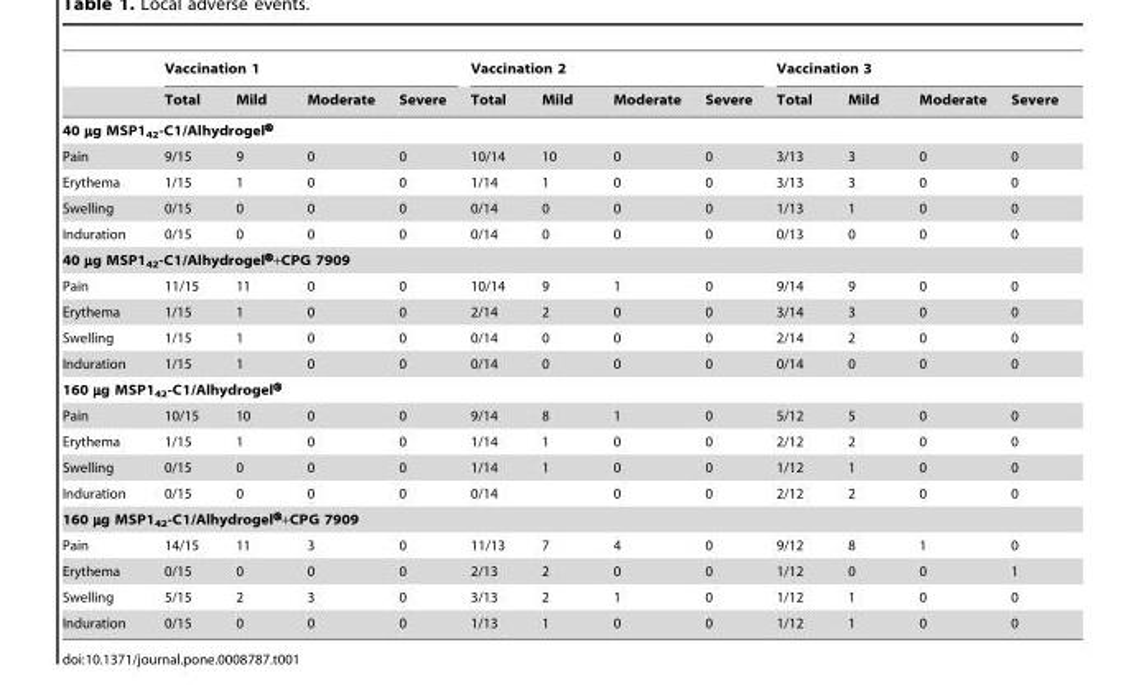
<table><thead><tr><td rowspan="2"></td><td colspan="4">Vaccination 1</td><td colspan="4">Vaccination 2</td><td colspan="4">Vaccination 3</td></tr><tr><td>Total</td><td>Mild</td><td>Moderate</td><td>Severe</td><td>Total</td><td>Mild</td><td>Moderate</td><td>Severe</td><td>Total</td><td>Mild</td><td>Moderate</td><td>Severe</td></tr></thead><tbody><tr><td colspan="13">40 µg MSP1<sub>42</sub>-C1/Alhydrogel®</td></tr><tr><td>Pain</td><td>9/15</td><td>9</td><td>0</td><td>0</td><td>10/14</td><td>10</td><td>0</td><td>0</td><td>3/13</td><td>3</td><td>0</td><td>0</td></tr><tr><td>Erythema</td><td>1/15</td><td>1</td><td>0</td><td>0</td><td>1/14</td><td>1</td><td>0</td><td>0</td><td>3/13</td><td>3</td><td>0</td><td>0</td></tr><tr><td>Swelling</td><td>0/15</td><td>0</td><td>0</td><td>0</td><td>0/14</td><td>0</td><td>0</td><td>0</td><td>1/13</td><td>1</td><td>0</td><td>0</td></tr><tr><td>Induration</td><td>0/15</td><td>0</td><td>0</td><td>0</td><td>0/14</td><td>0</td><td>0</td><td>0</td><td>0/13</td><td>0</td><td>0</td><td>0</td></tr><tr><td colspan="13">40 µg MSP1<sub>42</sub>-C1/Alhydrogel®+CPG 7909</td></tr><tr><td>Pain</td><td>11/15</td><td>11</td><td>0</td><td>0</td><td>10/14</td><td>9</td><td>1</td><td>0</td><td>9/14</td><td>9</td><td>0</td><td>0</td></tr><tr><td>Erythema</td><td>1/15</td><td>1</td><td>0</td><td>0</td><td>2/14</td><td>2</td><td>0</td><td>0</td><td>3/14</td><td>3</td><td>0</td><td>0</td></tr><tr><td>Swelling</td><td>1/15</td><td>1</td><td>0</td><td>0</td><td>0/14</td><td>0</td><td>0</td><td>0</td><td>2/14</td><td>2</td><td>0</td><td>0</td></tr><tr><td>Induration</td><td>1/15</td><td>1</td><td>0</td><td>0</td><td>0/14</td><td>0</td><td>0</td><td>0</td><td>0/14</td><td>0</td><td>0</td><td>0</td></tr><tr><td colspan="13">160 µg MSP1<sub>42</sub>-C1/Alhydrogel®</td></tr><tr><td>Pain</td><td>10/15</td><td>10</td><td>0</td><td>0</td><td>9/14</td><td>8</td><td>1</td><td>0</td><td>5/12</td><td>5</td><td>0</td><td>0</td></tr><tr><td>Erythema</td><td>1/15</td><td>1</td><td>0</td><td>0</td><td>1/14</td><td>1</td><td>0</td><td>0</td><td>2/12</td><td>2</td><td>0</td><td>0</td></tr><tr><td>Swelling</td><td>0/15</td><td>0</td><td>0</td><td>0</td><td>1/14</td><td>1</td><td>0</td><td>0</td><td>1/12</td><td>1</td><td>0</td><td>0</td></tr><tr><td>Induration</td><td>0/15</td><td>0</td><td>0</td><td>0</td><td>0/14</td><td></td><td>0</td><td>0</td><td>2/12</td><td>2</td><td>0</td><td>0</td></tr><tr><td colspan="13">160 µg MSP1<sub>42</sub>-C1/Alhydrogel®+CPG 7909</td></tr><tr><td>Pain</td><td>14/15</td><td>11</td><td>3</td><td>0</td><td>11/13</td><td>7</td><td>4</td><td>0</td><td>9/12</td><td>8</td><td>1</td><td>0</td></tr><tr><td>Erythema</td><td>0/15</td><td>0</td><td>0</td><td>0</td><td>2/13</td><td>2</td><td>0</td><td>0</td><td>1/12</td><td>0</td><td>0</td><td>1</td></tr><tr><td>Swelling</td><td>5/15</td><td>2</td><td>3</td><td>0</td><td>3/13</td><td>2</td><td>1</td><td>0</td><td>1/12</td><td>1</td><td>0</td><td>0</td></tr><tr><td>Induration</td><td>0/15</td><td>0</td><td>0</td><td>0</td><td>1/13</td><td>1</td><td>0</td><td>0</td><td>1/12</td><td>1</td><td>0</td><td>0</td></tr></tbody></table>